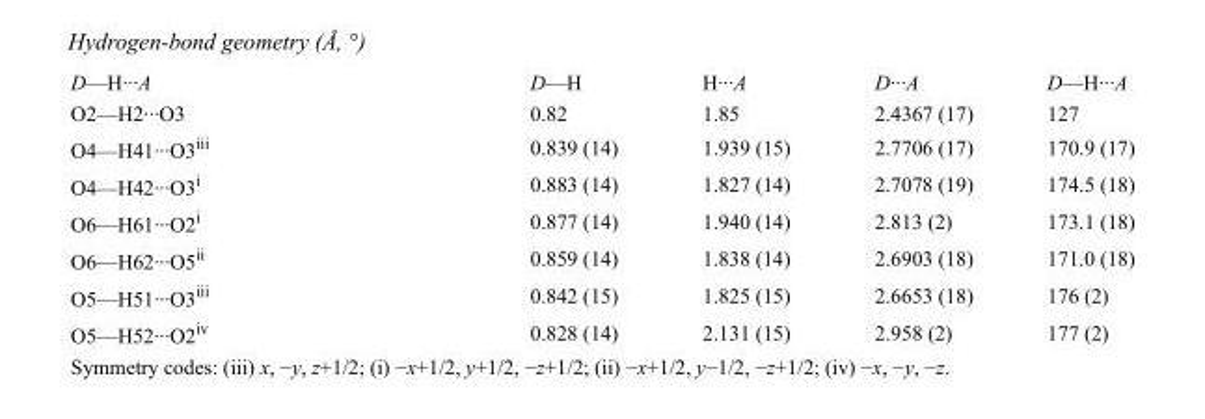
<table><tbody><tr><td>D—H···A</td><td>D—H</td><td>H···A</td><td>D···A</td><td>D—H···A</td></tr><tr><td>O2—H2···O3</td><td>0.82</td><td>1.85</td><td>2.4367 (17)</td><td>127</td></tr><tr><td>O4—H41···O3<sup>iii</sup></td><td>0.839 (14)</td><td>1.939 (15)</td><td>2.7706 (17)</td><td>170.9 (17)</td></tr><tr><td>O4—H42···O3<sup>i</sup></td><td>0.883 (14)</td><td>1.827 (14)</td><td>2.7078 (19)</td><td>174.5 (18)</td></tr><tr><td>O6—H61···O2<sup>i</sup></td><td>0.877 (14)</td><td>1.940 (14)</td><td>2.813 (2)</td><td>173.1 (18)</td></tr><tr><td>O6—H62···O5<sup>ii</sup></td><td>0.859 (14)</td><td>1.838 (14)</td><td>2.6903 (18)</td><td>171.0 (18)</td></tr><tr><td>O5—H51···O3<sup>iii</sup></td><td>0.842 (15)</td><td>1.825 (15)</td><td>2.6653 (18)</td><td>176 (2)</td></tr><tr><td>O5—H52···O2<sup>iv</sup></td><td>0.828 (14)</td><td>2.131 (15)</td><td>2.958 (2)</td><td>177 (2)</td></tr></tbody></table>